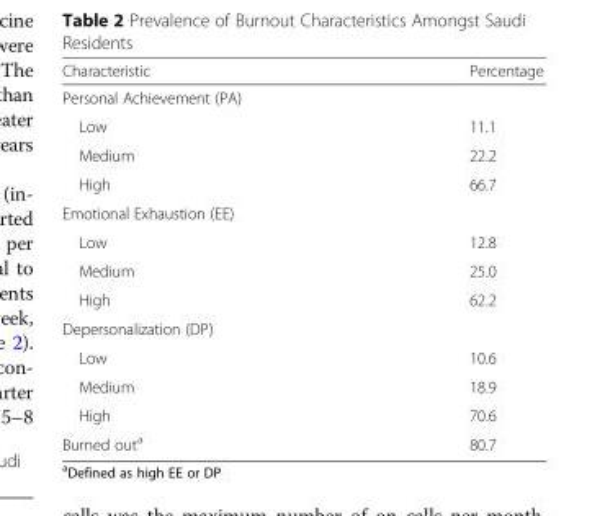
<table><thead><tr><td>Characteristic</td><td>Percentage</td></tr></thead><tbody><tr><td colspan="2">Personal Achievement (PA)</td></tr><tr><td>Low</td><td>11.1</td></tr><tr><td>Medium</td><td>22.2</td></tr><tr><td>High</td><td>66.7</td></tr><tr><td colspan="2">Emotional Exhaustion (EE)</td></tr><tr><td>Low</td><td>12.8</td></tr><tr><td>Medium</td><td>25.0</td></tr><tr><td>High</td><td>62.2</td></tr><tr><td colspan="2">Depersonalization (DP)</td></tr><tr><td>Low</td><td>10.6</td></tr><tr><td>Medium</td><td>18.9</td></tr><tr><td>High</td><td>70.6</td></tr><tr><td>Burned out<sup>a</sup></td><td>80.7</td></tr></tbody></table>